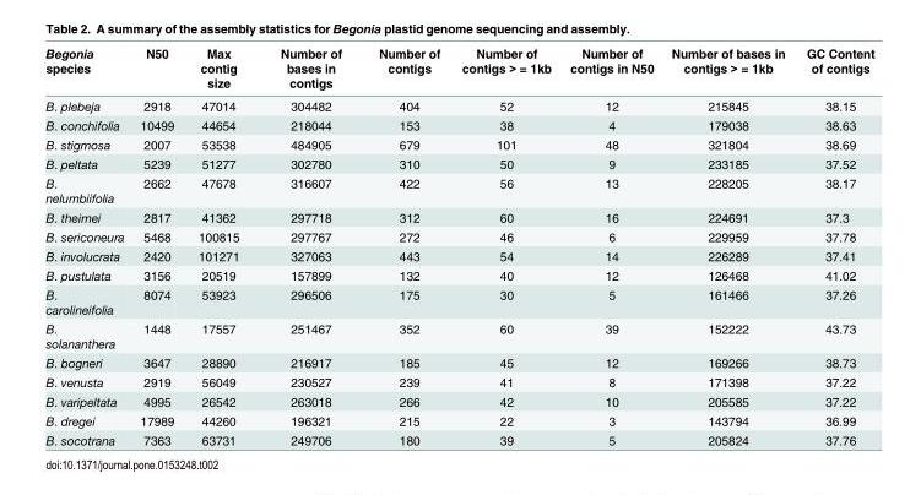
<table><thead><tr><td>Begonia species</td><td>N50</td><td>Max contig size</td><td>Number of bases in contigs</td><td>Number of contigs</td><td>Number of contigs &gt; = 1kb</td><td>Number of contigs in N50</td><td>Number of bases in contigs &gt; = 1kb</td><td>GC Content of contigs</td></tr></thead><tbody><tr><td>B. plebeja</td><td>2918</td><td>47014</td><td>304482</td><td>404</td><td>52</td><td>12</td><td>215845</td><td>38.15</td></tr><tr><td>B. conchifolia</td><td>10499</td><td>44654</td><td>218044</td><td>153</td><td>38</td><td>4</td><td>179038</td><td>38.63</td></tr><tr><td>B. stigmosa</td><td>2007</td><td>53538</td><td>484905</td><td>679</td><td>101</td><td>48</td><td>321804</td><td>38.69</td></tr><tr><td>B. peltata</td><td>5239</td><td>51277</td><td>302780</td><td>310</td><td>50</td><td>9</td><td>233185</td><td>37.52</td></tr><tr><td>B. nelumbiifolia</td><td>2662</td><td>47678</td><td>316607</td><td>422</td><td>56</td><td>13</td><td>228205</td><td>38.17</td></tr><tr><td>B. theimei</td><td>2817</td><td>41362</td><td>297718</td><td>312</td><td>60</td><td>16</td><td>224691</td><td>37.3</td></tr><tr><td>B. sericoneura</td><td>5468</td><td>100815</td><td>297767</td><td>272</td><td>46</td><td>6</td><td>229959</td><td>37.78</td></tr><tr><td>B. involucrata</td><td>2420</td><td>101271</td><td>327063</td><td>443</td><td>54</td><td>14</td><td>226289</td><td>37.41</td></tr><tr><td>B. pustulata</td><td>3156</td><td>20519</td><td>157899</td><td>132</td><td>40</td><td>12</td><td>126468</td><td>41.02</td></tr><tr><td>B. carolineifolia</td><td>8074</td><td>53923</td><td>296506</td><td>175</td><td>30</td><td>5</td><td>161466</td><td>37.26</td></tr><tr><td>B. solananthera</td><td>1448</td><td>17557</td><td>251467</td><td>352</td><td>60</td><td>39</td><td>152222</td><td>43.73</td></tr><tr><td>B. bogneri</td><td>3647</td><td>28890</td><td>216917</td><td>185</td><td>45</td><td>12</td><td>169266</td><td>38.73</td></tr><tr><td>B. venusta</td><td>2919</td><td>56049</td><td>230527</td><td>239</td><td>41</td><td>8</td><td>171398</td><td>37.22</td></tr><tr><td>B. varipeltata</td><td>4995</td><td>26542</td><td>263018</td><td>266</td><td>42</td><td>10</td><td>205585</td><td>37.22</td></tr><tr><td>B. dregei</td><td>17989</td><td>44260</td><td>196321</td><td>215</td><td>22</td><td>3</td><td>143794</td><td>36.99</td></tr><tr><td>B. socotrana</td><td>7363</td><td>63731</td><td>249706</td><td>180</td><td>39</td><td>5</td><td>205824</td><td>37.76</td></tr></tbody></table>